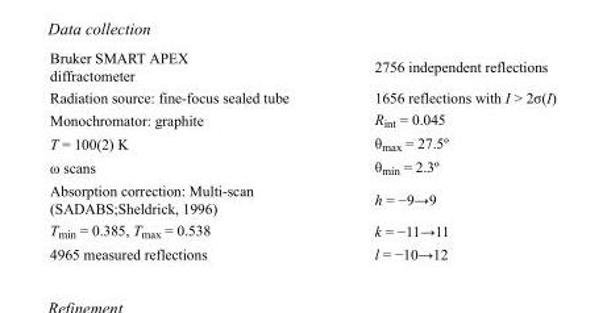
<table><tbody><tr><td>Bruker SMART APEX diffractometer</td><td>2756 independent reflections</td></tr><tr><td>Radiation source: fine-focus sealed tube</td><td>1656 reflections with I &gt; 2σ(I)</td></tr><tr><td>Monochromator: graphite</td><td>R<sub>int</sub> = 0.045</td></tr><tr><td>T = 100(2) K</td><td>θ<sub>max</sub> = 27.5º</td></tr><tr><td>ω scans</td><td>θ<sub>min</sub> = 2.3º</td></tr><tr><td>Absorption correction: Multi-scan (SADABS;Sheldrick, 1996)</td><td>h = −9→9</td></tr><tr><td>T<sub>min</sub> = 0.385, T<sub>max</sub> = 0.538</td><td>k = −11→11</td></tr><tr><td>4965 measured reflections</td><td>l = −10→12</td></tr></tbody></table>